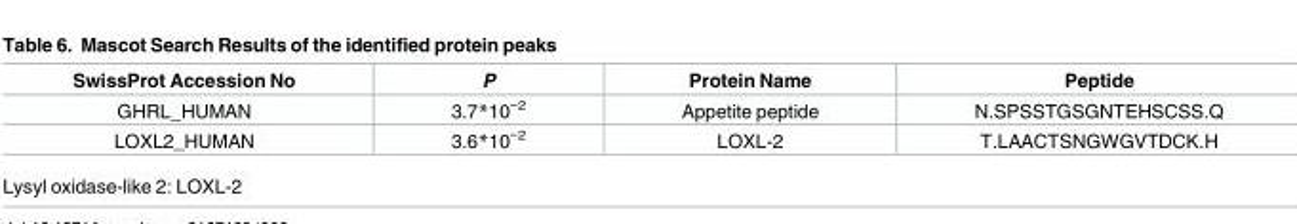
<table><thead><tr><td>SwissProt Accession No</td><td>P</td><td>Protein Name</td><td>Peptide</td></tr></thead><tbody><tr><td>GHRL_HUMAN</td><td>3.7*10<sup>−2</sup></td><td>Appetite peptide</td><td>N.SPSSTGSGNTEHSCSS.Q</td></tr><tr><td>LOXL2_HUMAN</td><td>3.6*10<sup>−2</sup></td><td>LOXL-2</td><td>T.LAACTSNGWGVTDCK.H</td></tr></tbody></table>